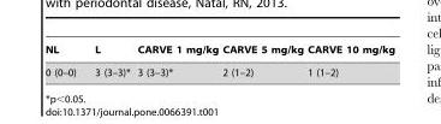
<table><thead><tr><td>NL</td><td>L</td><td>CARVE 1 mg/kg</td><td>CARVE 5 mg/kg</td><td>CARVE 10 mg/kg</td></tr></thead><tbody><tr><td>0 (0–0)</td><td>3 (3–3)*</td><td>3 (3–3)*</td><td>2 (1–2)</td><td>1 (1–2)</td></tr></tbody></table>